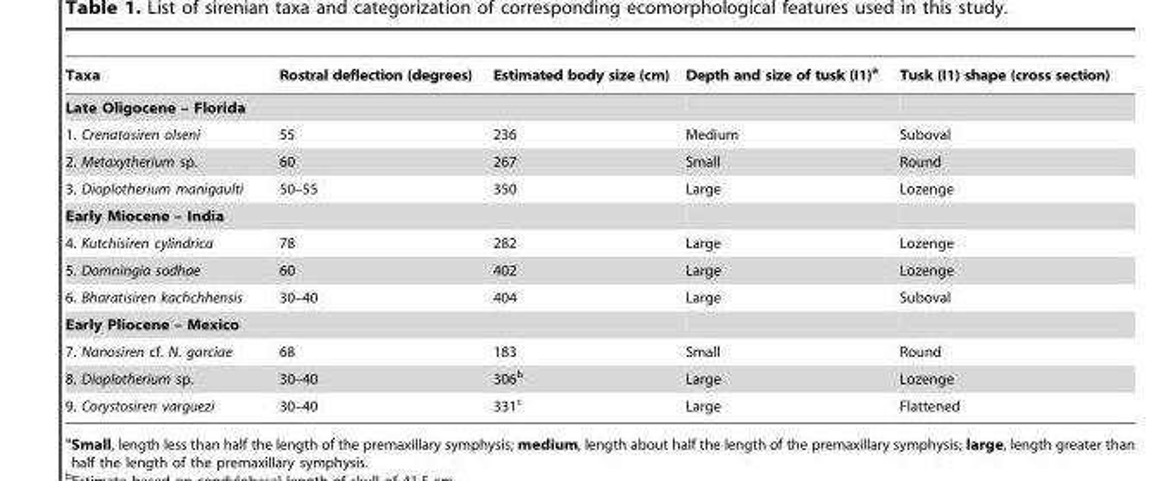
<table><thead><tr><td>Taxa</td><td>Rostral deflection (degrees)</td><td>Estimated body size (cm)</td><td>Depth and size of tusk (I1)<sup>a</sup></td><td>Tusk (I1) shape (cross section)</td></tr></thead><tbody><tr><td colspan="5">Late Oligocene – Florida</td></tr><tr><td>1. Crenatosiren olseni</td><td>55</td><td>236</td><td>Medium</td><td>Suboval</td></tr><tr><td>2. Metaxytherium sp.</td><td>60</td><td>267</td><td>Small</td><td>Round</td></tr><tr><td>3. Dioplotherium manigaulti</td><td>50–55</td><td>350</td><td>Large</td><td>Lozenge</td></tr><tr><td colspan="5">Early Miocene – India</td></tr><tr><td>4. Kutchisiren cylindrica</td><td>78</td><td>282</td><td>Large</td><td>Lozenge</td></tr><tr><td>5. Domningia sodhae</td><td>60</td><td>402</td><td>Large</td><td>Lozenge</td></tr><tr><td>6. Bharatisiren kachchhensis</td><td>30–40</td><td>404</td><td>Large</td><td>Suboval</td></tr><tr><td colspan="5">Early Pliocene – Mexico</td></tr><tr><td>7. Nanosiren cf. N. garciae</td><td>68</td><td>183</td><td>Small</td><td>Round</td></tr><tr><td>8. Dioplotherium sp.</td><td>30–40</td><td>306<sup>b</sup></td><td>Large</td><td>Lozenge</td></tr><tr><td>9. Corystosiren varguezi</td><td>30–40</td><td>331<sup>c</sup></td><td>Large</td><td>Flattened</td></tr></tbody></table>